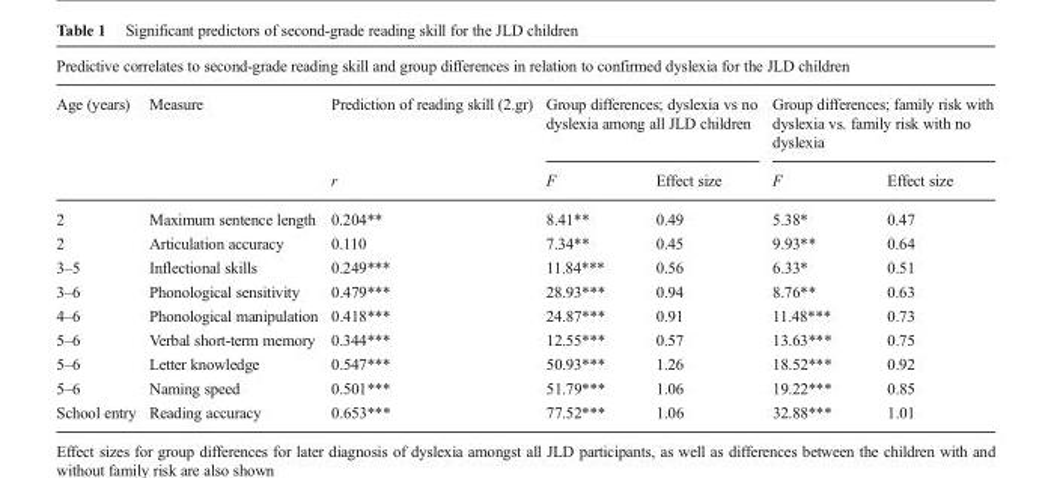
<table><thead><tr><td colspan="7">Predictive correlates to second-grade reading skill and group differences in relation to confirmed dyslexia for the JLD children</td></tr><tr><td rowspan="2">Age (years)</td><td rowspan="2">Measure</td><td rowspan="2">Prediction of reading skill (2.gr) r</td><td colspan="2">Group differences; dyslexia vs no dyslexia among all JLD children</td><td colspan="2">Group differences; family risk with dyslexia vs. family risk with no dyslexia</td></tr><tr><td>F</td><td>Effect size</td><td>F</td><td>Effect size</td></tr></thead><tbody><tr><td>2</td><td>Maximum sentence length</td><td>0.204**</td><td>8.41**</td><td>0.49</td><td>5.38*</td><td>0.47</td></tr><tr><td>2</td><td>Articulation accuracy</td><td>0.110</td><td>7.34**</td><td>0.45</td><td>9.93**</td><td>0.64</td></tr><tr><td>3–5</td><td>Inflectional skills</td><td>0.249***</td><td>11.84***</td><td>0.56</td><td>6.33*</td><td>0.51</td></tr><tr><td>3–6</td><td>Phonological sensitivity</td><td>0.479***</td><td>28.93***</td><td>0.94</td><td>8.76**</td><td>0.63</td></tr><tr><td>4–6</td><td>Phonological manipulation</td><td>0.418***</td><td>24.87***</td><td>0.91</td><td>11.48***</td><td>0.73</td></tr><tr><td>5–6</td><td>Verbal short-term memory</td><td>0.344***</td><td>12.55***</td><td>0.57</td><td>13.63***</td><td>0.75</td></tr><tr><td>5–6</td><td>Letter knowledge</td><td>0.547***</td><td>50.93***</td><td>1.26</td><td>18.52***</td><td>0.92</td></tr><tr><td>5–6</td><td>Naming speed</td><td>0.501***</td><td>51.79***</td><td>1.06</td><td>19.22***</td><td>0.85</td></tr><tr><td>School entry</td><td>Reading accuracy</td><td>0.653***</td><td>77.52***</td><td>1.06</td><td>32.88***</td><td>1.01</td></tr></tbody></table>